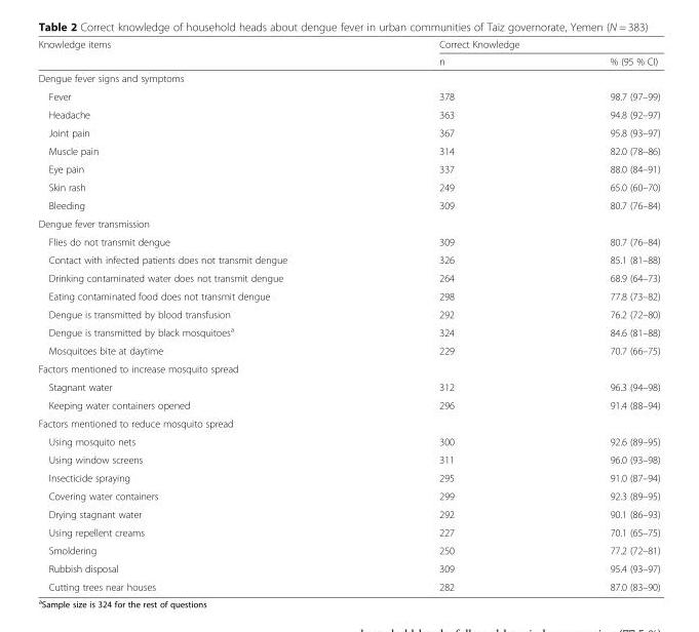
<table><thead><tr><td rowspan="2">Knowledge items</td><td colspan="2">Correct Knowledge</td></tr><tr><td>n</td><td>% (95 % CI)</td></tr></thead><tbody><tr><td colspan="3">Dengue fever signs and symptoms</td></tr><tr><td>Fever</td><td>378</td><td>98.7 (97–99)</td></tr><tr><td>Headache</td><td>363</td><td>94.8 (92–97)</td></tr><tr><td>Joint pain</td><td>367</td><td>95.8 (93–97)</td></tr><tr><td>Muscle pain</td><td>314</td><td>82.0 (78–86)</td></tr><tr><td>Eye pain</td><td>337</td><td>88.0 (84–91)</td></tr><tr><td>Skin rash</td><td>249</td><td>65.0 (60–70)</td></tr><tr><td>Bleeding</td><td>309</td><td>80.7 (76–84)</td></tr><tr><td colspan="3">Dengue fever transmission</td></tr><tr><td>Flies do not transmit dengue</td><td>309</td><td>80.7 (76–84)</td></tr><tr><td>Contact with infected patients does not transmit dengue</td><td>326</td><td>85.1 (81–88)</td></tr><tr><td>Drinking contaminated water does not transmit dengue</td><td>264</td><td>68.9 (64–73)</td></tr><tr><td>Eating contaminated food does not transmit dengue</td><td>298</td><td>77.8 (73–82)</td></tr><tr><td>Dengue is transmitted by blood transfusion</td><td>292</td><td>76.2 (72–80)</td></tr><tr><td>Dengue is transmitted by black mosquitoes<sup>a</sup></td><td>324</td><td>84.6 (81–88)</td></tr><tr><td>Mosquitoes bite at daytime</td><td>229</td><td>70.7 (66–75)</td></tr><tr><td colspan="3">Factors mentioned to increase mosquito spread</td></tr><tr><td>Stagnant water</td><td>312</td><td>96.3 (94–98)</td></tr><tr><td>Keeping water containers opened</td><td>296</td><td>91.4 (88–94)</td></tr><tr><td colspan="3">Factors mentioned to reduce mosquito spread</td></tr><tr><td>Using mosquito nets</td><td>300</td><td>92.6 (89–95)</td></tr><tr><td>Using window screens</td><td>311</td><td>96.0 (93–98)</td></tr><tr><td>Insecticide spraying</td><td>295</td><td>91.0 (87–94)</td></tr><tr><td>Covering water containers</td><td>299</td><td>92.3 (89–95)</td></tr><tr><td>Drying stagnant water</td><td>292</td><td>90.1 (86–93)</td></tr><tr><td>Using repellent creams</td><td>227</td><td>70.1 (65–75)</td></tr><tr><td>Smoldering</td><td>250</td><td>77.2 (72–81)</td></tr><tr><td>Rubbish disposal</td><td>309</td><td>95.4 (93–97)</td></tr><tr><td>Cutting trees near houses</td><td>282</td><td>87.0 (83–90)</td></tr></tbody></table>